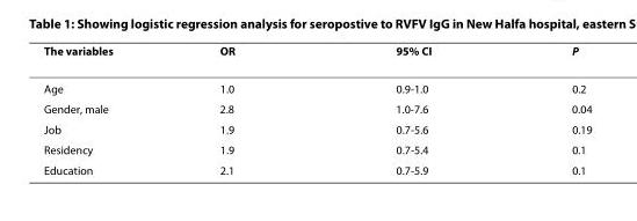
<table><thead><tr><td>The variables</td><td>OR</td><td>95% CI</td><td>P</td></tr></thead><tbody><tr><td>Age</td><td>1.0</td><td>0.9-1.0</td><td>0.2</td></tr><tr><td>Gender, male</td><td>2.8</td><td>1.0-7.6</td><td>0.04</td></tr><tr><td>Job</td><td>1.9</td><td>0.7-5.6</td><td>0.19</td></tr><tr><td>Residency</td><td>1.9</td><td>0.7-5.4</td><td>0.1</td></tr><tr><td>Education</td><td>2.1</td><td>0.7-5.9</td><td>0.1</td></tr></tbody></table>